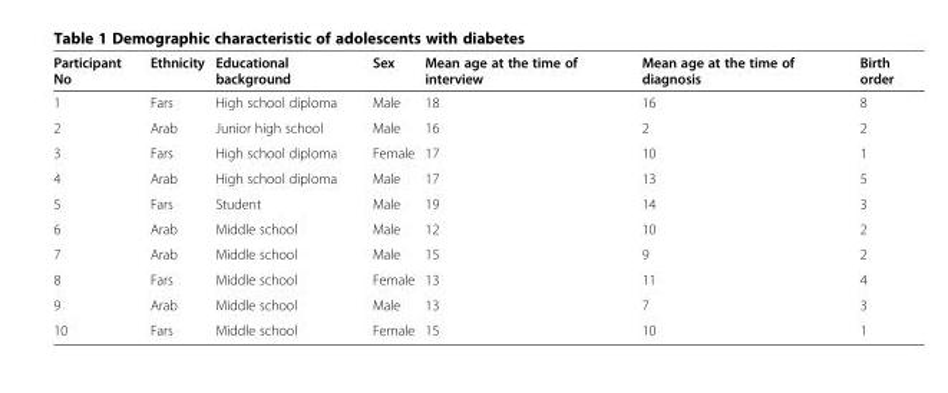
<table><thead><tr><td>Participant No</td><td>Ethnicity</td><td>Educational background</td><td>Sex</td><td>Mean age at the time of interview</td><td>Mean age at the time of diagnosis</td><td>Birth order</td></tr></thead><tbody><tr><td>1</td><td>Fars</td><td>High school diploma</td><td>Male</td><td>18</td><td>16</td><td>8</td></tr><tr><td>2</td><td>Arab</td><td>Junior high school</td><td>Male</td><td>16</td><td>2</td><td>2</td></tr><tr><td>3</td><td>Fars</td><td>High school diploma</td><td>Female</td><td>17</td><td>10</td><td>1</td></tr><tr><td>4</td><td>Arab</td><td>High school diploma</td><td>Male</td><td>17</td><td>13</td><td>5</td></tr><tr><td>5</td><td>Fars</td><td>Student</td><td>Male</td><td>19</td><td>14</td><td>3</td></tr><tr><td>6</td><td>Arab</td><td>Middle school</td><td>Male</td><td>12</td><td>10</td><td>2</td></tr><tr><td>7</td><td>Arab</td><td>Middle school</td><td>Male</td><td>15</td><td>9</td><td>2</td></tr><tr><td>8</td><td>Fars</td><td>Middle school</td><td>Female</td><td>13</td><td>11</td><td>4</td></tr><tr><td>9</td><td>Arab</td><td>Middle school</td><td>Male</td><td>13</td><td>7</td><td>3</td></tr><tr><td>10</td><td>Fars</td><td>Middle school</td><td>Female</td><td>15</td><td>10</td><td>1</td></tr></tbody></table>